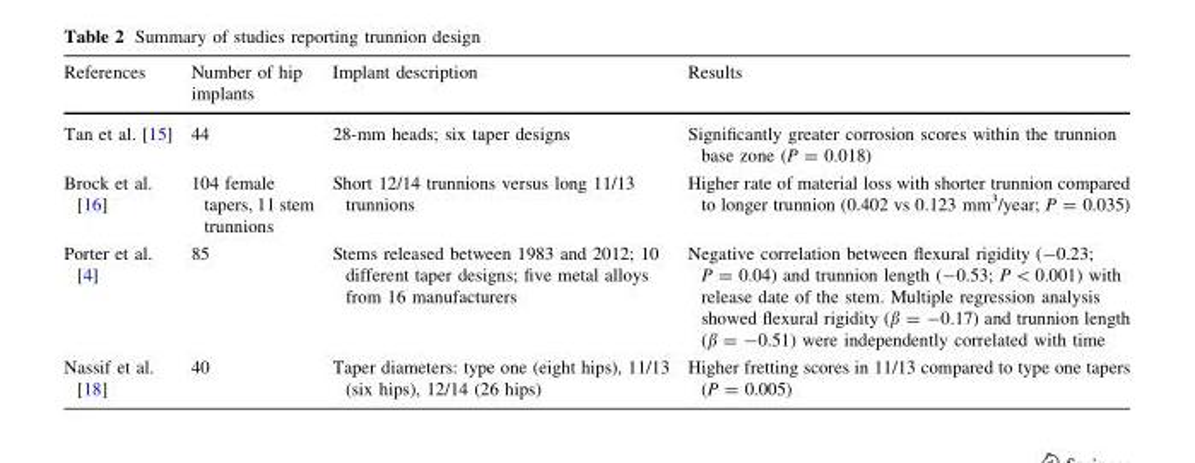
<table><thead><tr><td>References</td><td>Number of hip implants</td><td>Implant description</td><td>Results</td></tr></thead><tbody><tr><td>Tan et al. [15]</td><td>44</td><td>28-mm heads; six taper designs</td><td>Significantly greater corrosion scores within the trunnion base zone (P = 0.018)</td></tr><tr><td>Brock et al. [16]</td><td>104 female tapers, 11 stem trunnions</td><td>Short 12/14 trunnions versus long 11/13 trunnions</td><td>Higher rate of material loss with shorter trunnion compared to longer trunnion (0.402 vs 0.123 mm<sup>3</sup>/year; P = 0.035)</td></tr><tr><td>Porter et al. [4]</td><td>85</td><td>Stems released between 1983 and 2012; 10 different taper designs; five metal alloys from 16 manufacturers</td><td>Negative correlation between flexural rigidity (-0.23; P = 0.04) and trunnion length (-0.53; P &lt; 0.001) with release date of the stem. Multiple regression analysis showed flexural rigidity (β = -0.17) and trunnion length (β = -0.51) were independently correlated with time</td></tr><tr><td>Nassif et al. [18]</td><td>40</td><td>Taper diameters: type one (eight hips), 11/13 (six hips), 12/14 (26 hips)</td><td>Higher fretting scores in 11/13 compared to type one tapers (P = 0.005)</td></tr></tbody></table>